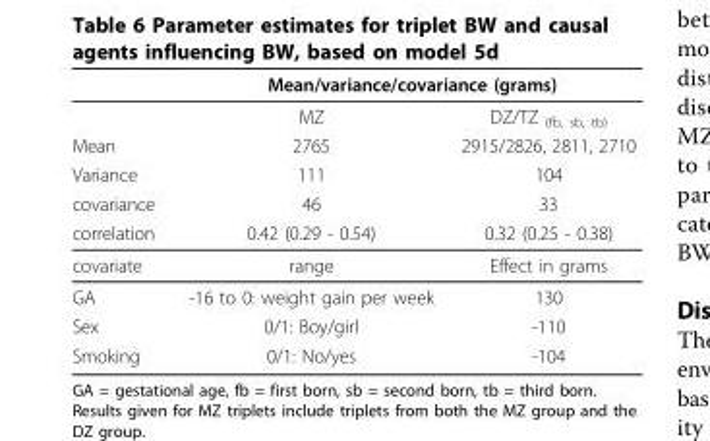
<table><thead><tr><td rowspan="2"></td><td colspan="2">Mean/variance/covariance (grams)</td></tr><tr><td>MZ</td><td>DZ/TZ <sub>(fb, sb, tb)</sub></td></tr></thead><tbody><tr><td>Mean</td><td>2765</td><td>2915/2826, 2811, 2710</td></tr><tr><td>Variance</td><td>111</td><td>104</td></tr><tr><td>covariance</td><td>46</td><td>33</td></tr><tr><td>correlation</td><td>0.42 (0.29 - 0.54)</td><td>0.32 (0.25 - 0.38)</td></tr><tr><td>covariate</td><td>range</td><td>Effect in grams</td></tr><tr><td>GA</td><td>-16 to 0: weight gain per week</td><td>130</td></tr><tr><td>Sex</td><td>0/1: Boy/girl</td><td>-110</td></tr><tr><td>Smoking</td><td>0/1: No/yes</td><td>-104</td></tr></tbody></table>